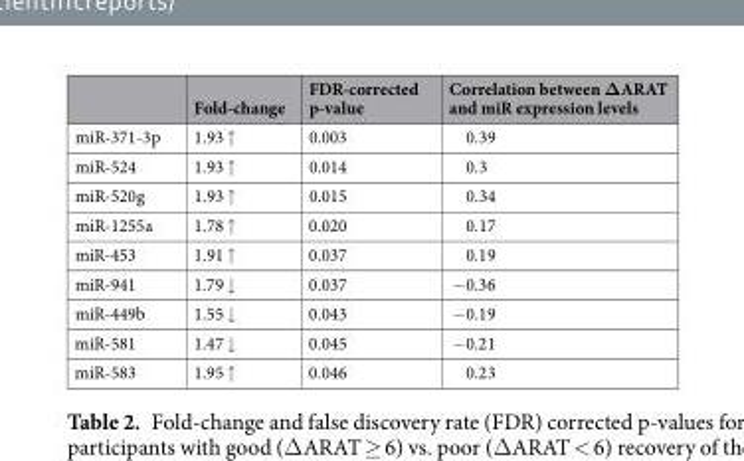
<table><thead><tr><td></td><td>Fold-change</td><td>FDR-corrected p-value</td><td>Correlation between ΔARAT and miR expression levels</td></tr></thead><tbody><tr><td>miR-371-3p</td><td>1.93 ↑</td><td>0.003</td><td>0.39</td></tr><tr><td>miR-524</td><td>1.93 ↑</td><td>0.014</td><td>0.3</td></tr><tr><td>miR-520g</td><td>1.93 ↑</td><td>0.015</td><td>0.34</td></tr><tr><td>miR-1255a</td><td>1.78 ↑</td><td>0.020</td><td>0.17</td></tr><tr><td>miR-453</td><td>1.91 ↑</td><td>0.037</td><td>0.19</td></tr><tr><td>miR-941</td><td>1.79 ↓</td><td>0.037</td><td>−0.36</td></tr><tr><td>miR-449b</td><td>1.55 ↓</td><td>0.043</td><td>−0.19</td></tr><tr><td>miR-581</td><td>1.47 ↓</td><td>0.045</td><td>−0.21</td></tr><tr><td>miR-583</td><td>1.95 ↑</td><td>0.046</td><td>0.23</td></tr></tbody></table>